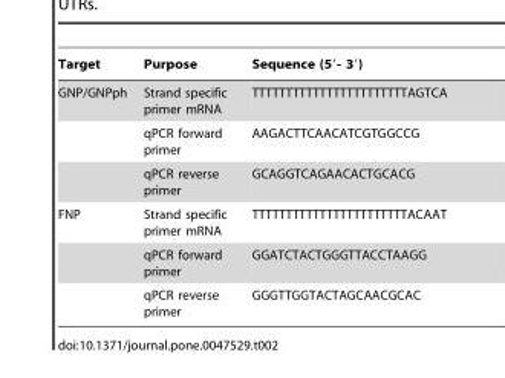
<table><thead><tr><td>Target</td><td>Purpose</td><td>Sequence (5′- 3′)</td></tr></thead><tbody><tr><td rowspan="3">GNP/GNPph</td><td>Strand specific primer mRNA</td><td>TTTTTTTTTTTTTTTTTTTTTTTAGTCA</td></tr><tr><td>qPCR forward primer</td><td>AAGACTTCAACATCGTGGCCG</td></tr><tr><td>qPCR reverse primer</td><td>GCAGGTCAGAACACTGCACG</td></tr><tr><td rowspan="3">FNP</td><td>Strand specific primer mRNA</td><td>TTTTTTTTTTTTTTTTTTTTTTTACAAT</td></tr><tr><td>qPCR forward primer</td><td>GGATCTACTGGGTTACCTAAGG</td></tr><tr><td>qPCR reverse primer</td><td>GGGTTGGTACTAGCAACGCAC</td></tr></tbody></table>